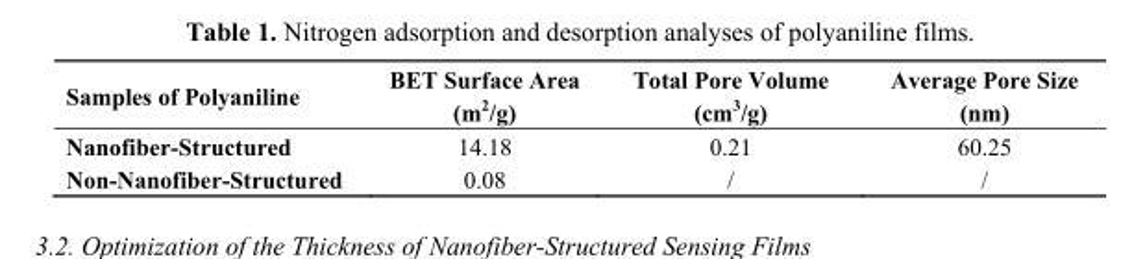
<table><thead><tr><td>Samples of Polyaniline</td><td>BET Surface Area (m<sup>2</sup>/g)</td><td>Total Pore Volume (cm<sup>3</sup>/g)</td><td>Average Pore Size (nm)</td></tr></thead><tbody><tr><td>Nanofiber-Structured</td><td>14.18</td><td>0.21</td><td>60.25</td></tr><tr><td>Non-Nanofiber-Structured</td><td>0.08</td><td>/</td><td>/</td></tr></tbody></table>